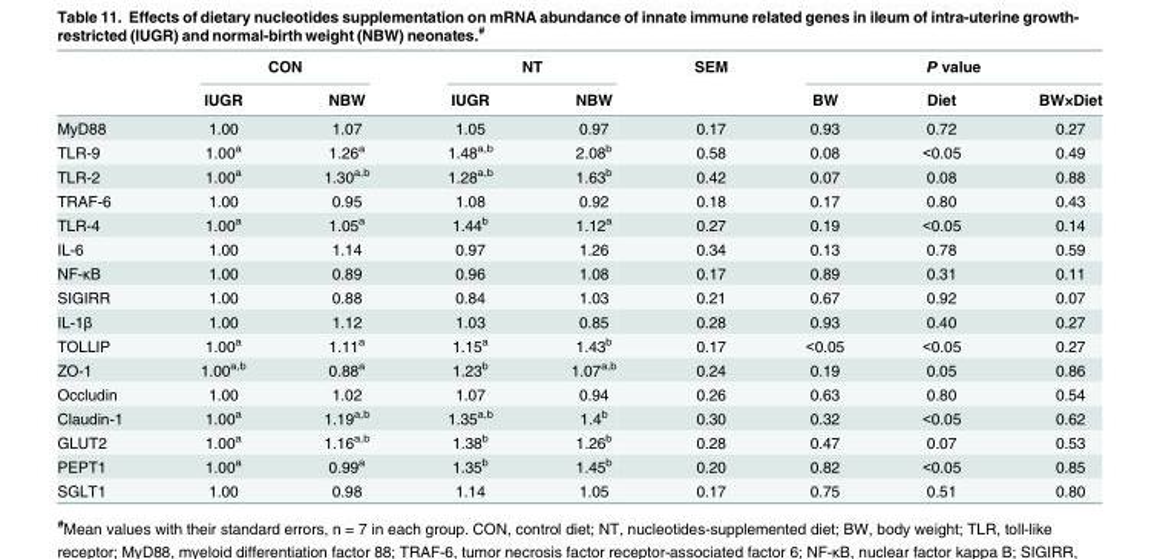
<table><thead><tr><td rowspan="2"></td><td colspan="2">CON</td><td colspan="2">NT</td><td rowspan="2">SEM</td><td colspan="3">P value</td></tr><tr><td>IUGR</td><td>NBW</td><td>IUGR</td><td>NBW</td><td>BW</td><td>Diet</td><td>BW×Diet</td></tr></thead><tbody><tr><td>MyD88</td><td>1.00</td><td>1.07</td><td>1.05</td><td>0.97</td><td>0.17</td><td>0.93</td><td>0.72</td><td>0.27</td></tr><tr><td>TLR-9</td><td>1.00<sup>a</sup></td><td>1.26<sup>a</sup></td><td>1.48<sup>a,b</sup></td><td>2.08<sup>b</sup></td><td>0.58</td><td>0.08</td><td>&lt;0.05</td><td>0.49</td></tr><tr><td>TLR-2</td><td>1.00<sup>a</sup></td><td>1.30<sup>a,b</sup></td><td>1.28<sup>a,b</sup></td><td>1.63<sup>b</sup></td><td>0.42</td><td>0.07</td><td>0.08</td><td>0.88</td></tr><tr><td>TRAF-6</td><td>1.00</td><td>0.95</td><td>1.08</td><td>0.92</td><td>0.18</td><td>0.17</td><td>0.80</td><td>0.43</td></tr><tr><td>TLR-4</td><td>1.00<sup>a</sup></td><td>1.05<sup>a</sup></td><td>1.44<sup>b</sup></td><td>1.12<sup>a</sup></td><td>0.27</td><td>0.19</td><td>&lt;0.05</td><td>0.14</td></tr><tr><td>IL-6</td><td>1.00</td><td>1.14</td><td>0.97</td><td>1.26</td><td>0.34</td><td>0.13</td><td>0.78</td><td>0.59</td></tr><tr><td>NF-κB</td><td>1.00</td><td>0.89</td><td>0.96</td><td>1.08</td><td>0.17</td><td>0.89</td><td>0.31</td><td>0.11</td></tr><tr><td>SIGIRR</td><td>1.00</td><td>0.88</td><td>0.84</td><td>1.03</td><td>0.21</td><td>0.67</td><td>0.92</td><td>0.07</td></tr><tr><td>IL-1β</td><td>1.00</td><td>1.12</td><td>1.03</td><td>0.85</td><td>0.28</td><td>0.93</td><td>0.40</td><td>0.27</td></tr><tr><td>TOLLIP</td><td>1.00<sup>a</sup></td><td>1.11<sup>a</sup></td><td>1.15<sup>a</sup></td><td>1.43<sup>b</sup></td><td>0.17</td><td>&lt;0.05</td><td>&lt;0.05</td><td>0.27</td></tr><tr><td>ZO-1</td><td>1.00<sup>a,b</sup></td><td>0.88<sup>a</sup></td><td>1.23<sup>b</sup></td><td>1.07<sup>a,b</sup></td><td>0.24</td><td>0.19</td><td>0.05</td><td>0.86</td></tr><tr><td>Occludin</td><td>1.00</td><td>1.02</td><td>1.07</td><td>0.94</td><td>0.26</td><td>0.63</td><td>0.80</td><td>0.54</td></tr><tr><td>Claudin-1</td><td>1.00<sup>a</sup></td><td>1.19<sup>a,b</sup></td><td>1.35<sup>a,b</sup></td><td>1.4<sup>b</sup></td><td>0.30</td><td>0.32</td><td>&lt;0.05</td><td>0.62</td></tr><tr><td>GLUT2</td><td>1.00<sup>a</sup></td><td>1.16<sup>a,b</sup></td><td>1.38<sup>b</sup></td><td>1.26<sup>b</sup></td><td>0.28</td><td>0.47</td><td>0.07</td><td>0.53</td></tr><tr><td>PEPT1</td><td>1.00<sup>a</sup></td><td>0.99<sup>a</sup></td><td>1.35<sup>b</sup></td><td>1.45<sup>b</sup></td><td>0.20</td><td>0.82</td><td>&lt;0.05</td><td>0.85</td></tr><tr><td>SGLT1</td><td>1.00</td><td>0.98</td><td>1.14</td><td>1.05</td><td>0.17</td><td>0.75</td><td>0.51</td><td>0.80</td></tr></tbody></table>